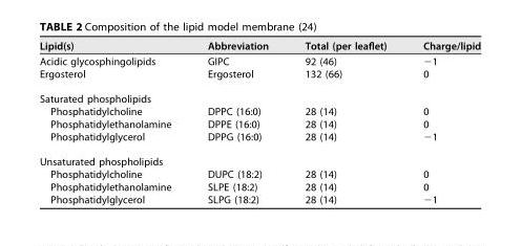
<table><thead><tr><td>Lipid(s)</td><td>Abbreviation</td><td>Total (per leaflet)</td><td>Charge/lipid</td></tr></thead><tbody><tr><td>Acidic glycosphingolipids</td><td>GIPC</td><td>92 (46)</td><td>−1</td></tr><tr><td>Ergosterol</td><td>Ergosterol</td><td>132 (66)</td><td>0</td></tr><tr><td colspan="4">Saturated phospholipids</td></tr><tr><td>Phosphatidylcholine</td><td>DPPC (16:0)</td><td>28 (14)</td><td>0</td></tr><tr><td>Phosphatidylethanolamine</td><td>DPPE (16:0)</td><td>28 (14)</td><td>0</td></tr><tr><td>Phosphatidylglycerol</td><td>DPPG (16:0)</td><td>28 (14)</td><td>−1</td></tr><tr><td colspan="4">Unsaturated phospholipids</td></tr><tr><td>Phosphatidylcholine</td><td>DUPC (18:2)</td><td>28 (14)</td><td>0</td></tr><tr><td>Phosphatidylethanolamine</td><td>SLPE (18:2)</td><td>28 (14)</td><td>0</td></tr><tr><td>Phosphatidylglycerol</td><td>SLPG (18:2)</td><td>28 (14)</td><td>−1</td></tr></tbody></table>